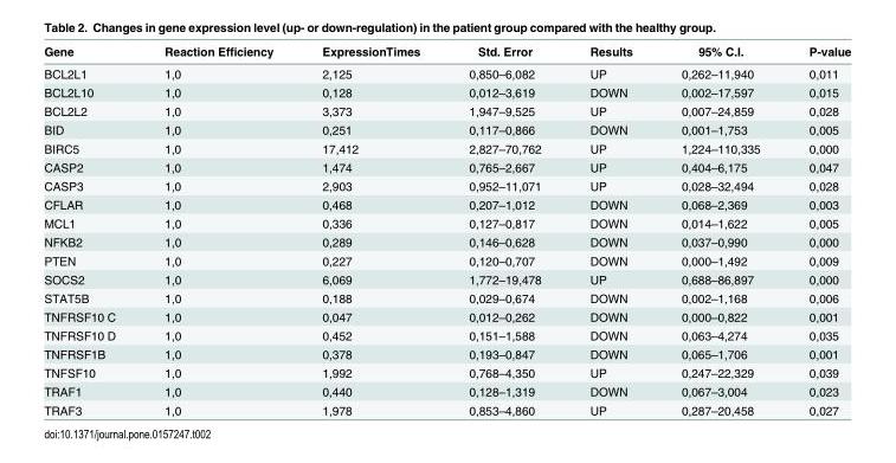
<table><thead><tr><td>Gene</td><td>Reaction Efficiency</td><td>ExpressionTimes</td><td>Std. Error</td><td>Results</td><td>95% C.I.</td><td>P-value</td></tr></thead><tbody><tr><td>BCL2L1</td><td>1,0</td><td>2,125</td><td>0,850–6,082</td><td>UP</td><td>0,262–11,940</td><td>0,011</td></tr><tr><td>BCL2L10</td><td>1,0</td><td>0,128</td><td>0,012–3,619</td><td>DOWN</td><td>0,002–17,597</td><td>0,015</td></tr><tr><td>BCL2L2</td><td>1,0</td><td>3,373</td><td>1,947–9,525</td><td>UP</td><td>0,007–24,859</td><td>0,028</td></tr><tr><td>BID</td><td>1,0</td><td>0,251</td><td>0,117–0,866</td><td>DOWN</td><td>0,001–1,753</td><td>0,005</td></tr><tr><td>BIRC5</td><td>1,0</td><td>17,412</td><td>2,827–70,762</td><td>UP</td><td>1,224–110,335</td><td>0,000</td></tr><tr><td>CASP2</td><td>1,0</td><td>1,474</td><td>0,765–2,667</td><td>UP</td><td>0,404–6,175</td><td>0,047</td></tr><tr><td>CASP3</td><td>1,0</td><td>2,903</td><td>0,952–11,071</td><td>UP</td><td>0,028–32,494</td><td>0,028</td></tr><tr><td>CFLAR</td><td>1,0</td><td>0,468</td><td>0,207–1,012</td><td>DOWN</td><td>0,068–2,369</td><td>0,003</td></tr><tr><td>MCL1</td><td>1,0</td><td>0,336</td><td>0,127–0,817</td><td>DOWN</td><td>0,014–1,622</td><td>0,005</td></tr><tr><td>NFKB2</td><td>1,0</td><td>0,289</td><td>0,146–0,628</td><td>DOWN</td><td>0,037–0,990</td><td>0,000</td></tr><tr><td>PTEN</td><td>1,0</td><td>0,227</td><td>0,120–0,707</td><td>DOWN</td><td>0,000–1,492</td><td>0,009</td></tr><tr><td>SOCS2</td><td>1,0</td><td>6,069</td><td>1,772–19,478</td><td>UP</td><td>0,688–86,897</td><td>0,000</td></tr><tr><td>STAT5B</td><td>1,0</td><td>0,188</td><td>0,029–0,674</td><td>DOWN</td><td>0,002–1,168</td><td>0,006</td></tr><tr><td>TNFRSF10 C</td><td>1,0</td><td>0,047</td><td>0,012–0,262</td><td>DOWN</td><td>0,000–0,822</td><td>0,001</td></tr><tr><td>TNFRSF10 D</td><td>1,0</td><td>0,452</td><td>0,151–1,588</td><td>DOWN</td><td>0,063–4,274</td><td>0,035</td></tr><tr><td>TNFRSF1B</td><td>1,0</td><td>0,378</td><td>0,193–0,847</td><td>DOWN</td><td>0,065–1,706</td><td>0,001</td></tr><tr><td>TNFSF10</td><td>1,0</td><td>1,992</td><td>0,768–4,350</td><td>UP</td><td>0,247–22,329</td><td>0,039</td></tr><tr><td>TRAF1</td><td>1,0</td><td>0,440</td><td>0,128–1,319</td><td>DOWN</td><td>0,067–3,004</td><td>0,023</td></tr><tr><td>TRAF3</td><td>1,0</td><td>1,978</td><td>0,853–4,860</td><td>UP</td><td>0,287–20,458</td><td>0,027</td></tr></tbody></table>